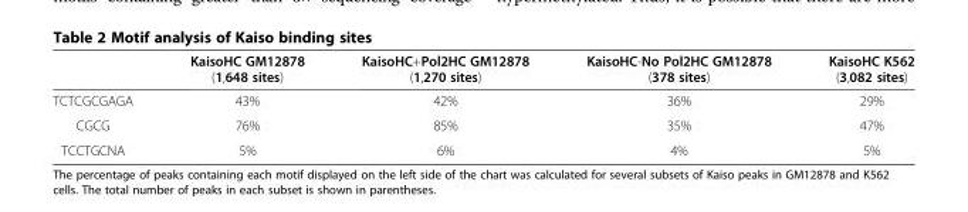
<table><thead><tr><td></td><td>KaisoHC GM12878 (1,648 sites)</td><td>KaisoHC+Pol2HC GM12878 (1,270 sites)</td><td>KaisoHC-No Pol2HC GM12878 (378 sites)</td><td>KaisoHC K562 (3,082 sites)</td></tr></thead><tbody><tr><td>TCTCGCGAGA</td><td>43%</td><td>42%</td><td>36%</td><td>29%</td></tr><tr><td>CGCG</td><td>76%</td><td>85%</td><td>35%</td><td>47%</td></tr><tr><td>TCCTGCNA</td><td>5%</td><td>6%</td><td>4%</td><td>5%</td></tr></tbody></table>